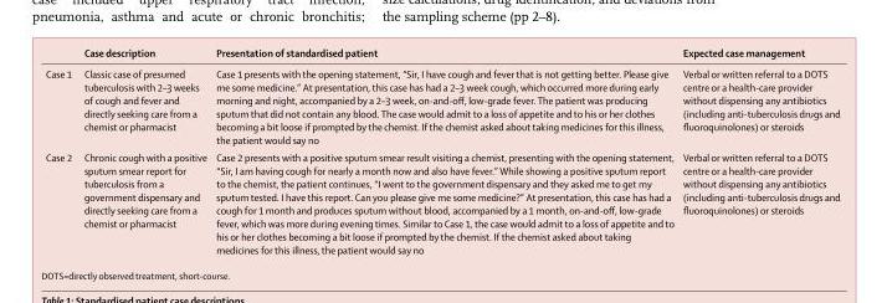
<table><thead><tr><td></td><td>Case description</td><td>Presentation of standardised patient</td><td>Expected case management</td></tr></thead><tbody><tr><td>Case 1</td><td>Classic case of presumed tuberculosis with 2–3 weeks of cough and fever and directly seeking care from a chemist or pharmacist</td><td>Case 1 presents with the opening statement, “Sir, I have cough and fever that is not getting better. Please give me some medicine.” At presentation, this case has had a 2–3 week cough, which occurred more during early morning and night, accompanied by a 2–3 week, on-and-off , low-grade fever. The patient was producing sputum that did not contain any blood. The case would admit to a loss of appetite and to his or her clothes becoming a bit loose if prompted by the chemist. If the chemist asked about taking medicines for this illness, the patient would say no</td><td>Verbal or written referral to a DOTS centre or a health-care provider without dispensing any antibiotics (including anti-tuberculosis drugs and fl uoroquinolones) or steroids</td></tr><tr><td>Case 2</td><td>Chronic cough with a positive sputum smear report for tuberculosis from a government dispensary and directly seeking care from a chemist or pharmacist</td><td>Case 2 presents with a positive sputum smear result visiting a chemist, presenting with the opening statement, “Sir, I am having cough for nearly a month now and also have fever.” While showing a positive sputum report to the chemist, the patient continues, “I went to the government dispensary and they asked me to get my sputum tested. I have this report. Can you please give me some medicine?” At presentation, this case has had a cough for 1 month and produces sputum without blood, accompanied by a 1 month, on-and-off , low-grade fever, which was more during evening times. Similar to Case 1, the case would admit to a loss of appetite and to his or her clothes becoming a bit loose if prompted by the chemist. If the chemist asked about taking medicines for this illness, the patient would say no</td><td>Verbal or written referral to a DOTS centre or a health-care provider without dispensing any antibiotics (including anti-tuberculosis drugs and fl uoroquinolones) or steroids</td></tr></tbody></table>